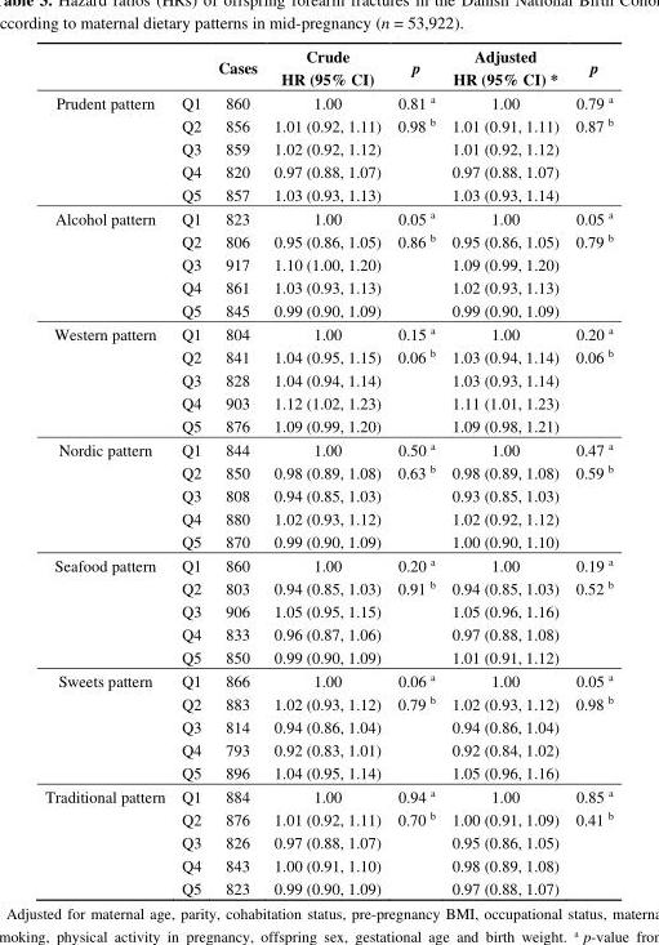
<table><thead><tr><td></td><td></td><td>Cases</td><td>Crude HR (95% CI)</td><td>p</td><td>Adjusted HR (95% CI) *</td><td>p</td></tr></thead><tbody><tr><td rowspan="5">Prudent pattern</td><td>Q1</td><td>860</td><td>1.00</td><td>0.81 <sup>a</sup></td><td>1.00</td><td>0.79 <sup>a</sup></td></tr><tr><td>Q2</td><td>856</td><td>1.01 (0.92, 1.11)</td><td>0.98 <sup>b</sup></td><td>1.01 (0.91, 1.11)</td><td>0.87 <sup>b</sup></td></tr><tr><td>Q3</td><td>859</td><td>1.02 (0.92, 1.12)</td><td></td><td>1.01 (0.92, 1.12)</td><td></td></tr><tr><td>Q4</td><td>820</td><td>0.97 (0.88, 1.07)</td><td></td><td>0.97 (0.88, 1.07)</td><td></td></tr><tr><td>Q5</td><td>857</td><td>1.03 (0.93, 1.13)</td><td></td><td>1.03 (0.93, 1.14)</td><td></td></tr><tr><td rowspan="5">Alcohol pattern</td><td>Q1</td><td>823</td><td>1.00</td><td>0.05 <sup>a</sup></td><td>1.00</td><td>0.05 <sup>a</sup></td></tr><tr><td>Q2</td><td>806</td><td>0.95 (0.86, 1.05)</td><td>0.86 <sup>b</sup></td><td>0.95 (0.86, 1.05)</td><td>0.79 <sup>b</sup></td></tr><tr><td>Q3</td><td>917</td><td>1.10 (1.00, 1.20)</td><td></td><td>1.09 (0.99, 1.20)</td><td></td></tr><tr><td>Q4</td><td>861</td><td>1.03 (0.93, 1.13)</td><td></td><td>1.02 (0.93, 1.13)</td><td></td></tr><tr><td>Q5</td><td>845</td><td>0.99 (0.90, 1.09)</td><td></td><td>0.99 (0.90, 1.09)</td><td></td></tr><tr><td rowspan="5">Western pattern</td><td>Q1</td><td>804</td><td>1.00</td><td>0.15 <sup>a</sup></td><td>1.00</td><td>0.20 <sup>a</sup></td></tr><tr><td>Q2</td><td>841</td><td>1.04 (0.95, 1.15)</td><td>0.06 <sup>b</sup></td><td>1.03 (0.94, 1.14)</td><td>0.06 <sup>b</sup></td></tr><tr><td>Q3</td><td>828</td><td>1.04 (0.94, 1.14)</td><td></td><td>1.03 (0.93, 1.14)</td><td></td></tr><tr><td>Q4</td><td>903</td><td>1.12 (1.02, 1.23)</td><td></td><td>1.11 (1.01, 1.23)</td><td></td></tr><tr><td>Q5</td><td>876</td><td>1.09 (0.99, 1.20)</td><td></td><td>1.09 (0.98, 1.21)</td><td></td></tr><tr><td rowspan="5">Nordic pattern</td><td>Q1</td><td>844</td><td>1.00</td><td>0.50 <sup>a</sup></td><td>1.00</td><td>0.47 <sup>a</sup></td></tr><tr><td>Q2</td><td>850</td><td>0.98 (0.89, 1.08)</td><td>0.63 <sup>b</sup></td><td>0.98 (0.89, 1.08)</td><td>0.59 <sup>b</sup></td></tr><tr><td>Q3</td><td>808</td><td>0.94 (0.85, 1.03)</td><td></td><td>0.93 (0.85, 1.03)</td><td></td></tr><tr><td>Q4</td><td>880</td><td>1.02 (0.93, 1.12)</td><td></td><td>1.02 (0.92, 1.12)</td><td></td></tr><tr><td>Q5</td><td>870</td><td>0.99 (0.90, 1.09)</td><td></td><td>1.00 (0.90, 1.10)</td><td></td></tr><tr><td rowspan="5">Seafood pattern</td><td>Q1</td><td>860</td><td>1.00</td><td>0.20 <sup>a</sup></td><td>1.00</td><td>0.19 <sup>a</sup></td></tr><tr><td>Q2</td><td>803</td><td>0.94 (0.85, 1.03)</td><td>0.91 <sup>b</sup></td><td>0.94 (0.85, 1.03)</td><td>0.52 <sup>b</sup></td></tr><tr><td>Q3</td><td>906</td><td>1.05 (0.95, 1.15)</td><td></td><td>1.05 (0.96, 1.16)</td><td></td></tr><tr><td>Q4</td><td>833</td><td>0.96 (0.87, 1.06)</td><td></td><td>0.97 (0.88, 1.08)</td><td></td></tr><tr><td>Q5</td><td>850</td><td>0.99 (0.90, 1.09)</td><td></td><td>1.01 (0.91, 1.12)</td><td></td></tr><tr><td rowspan="5">Sweets pattern</td><td>Q1</td><td>866</td><td>1.00</td><td>0.06 <sup>a</sup></td><td>1.00</td><td>0.05 <sup>a</sup></td></tr><tr><td>Q2</td><td>883</td><td>1.02 (0.93, 1.12)</td><td>0.79 <sup>b</sup></td><td>1.02 (0.93, 1.12)</td><td>0.98 <sup>b</sup></td></tr><tr><td>Q3</td><td>814</td><td>0.94 (0.86, 1.04)</td><td></td><td>0.94 (0.86, 1.04)</td><td></td></tr><tr><td>Q4</td><td>793</td><td>0.92 (0.83, 1.01)</td><td></td><td>0.92 (0.84, 1.02)</td><td></td></tr><tr><td>Q5</td><td>896</td><td>1.04 (0.95, 1.14)</td><td></td><td>1.05 (0.96, 1.16)</td><td></td></tr><tr><td rowspan="5">Traditional pattern</td><td>Q1</td><td>884</td><td>1.00</td><td>0.94 <sup>a</sup></td><td>1.00</td><td>0.85 <sup>a</sup></td></tr><tr><td>Q2</td><td>876</td><td>1.01 (0.92, 1.11)</td><td>0.70 <sup>b</sup></td><td>1.00 (0.91, 1.09)</td><td>0.41 <sup>b</sup></td></tr><tr><td>Q3</td><td>826</td><td>0.97 (0.88, 1.07)</td><td></td><td>0.95 (0.86, 1.05)</td><td></td></tr><tr><td>Q4</td><td>843</td><td>1.00 (0.91, 1.10)</td><td></td><td>0.98 (0.89, 1.08)</td><td></td></tr><tr><td>Q5</td><td>823</td><td>0.99 (0.90, 1.09)</td><td></td><td>0.97 (0.88, 1.07)</td><td></td></tr></tbody></table>